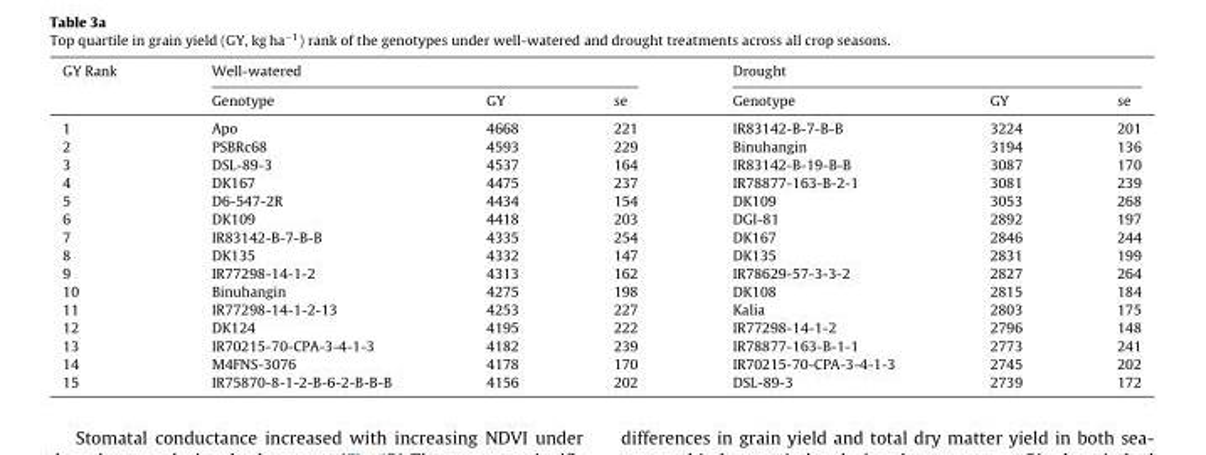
<table><thead><tr><td rowspan="2">GY Rank</td><td colspan="3">Well-watered</td><td colspan="3">Drought</td></tr><tr><td>Genotype</td><td>GY</td><td>se</td><td>Genotype</td><td>GY</td><td>se</td></tr></thead><tbody><tr><td>1</td><td>Apo</td><td>4668</td><td>221</td><td>IR83142-B-7-B-B</td><td>3224</td><td>201</td></tr><tr><td>2</td><td>PSBRc68</td><td>4593</td><td>229</td><td>Binuhangin</td><td>3194</td><td>136</td></tr><tr><td>3</td><td>DSL-89-3</td><td>4537</td><td>164</td><td>IR83142-B-19-B-B</td><td>3087</td><td>170</td></tr><tr><td>4</td><td>DK167</td><td>4475</td><td>237</td><td>IR78877-163-B-2-1</td><td>3081</td><td>239</td></tr><tr><td>5</td><td>D6-547-2R</td><td>4434</td><td>154</td><td>DK109</td><td>3053</td><td>268</td></tr><tr><td>6</td><td>DK109</td><td>4418</td><td>203</td><td>DGI-81</td><td>2892</td><td>197</td></tr><tr><td>7</td><td>IR83142-B-7-B-B</td><td>4335</td><td>254</td><td>DK167</td><td>2846</td><td>244</td></tr><tr><td>8</td><td>DK135</td><td>4332</td><td>147</td><td>DK135</td><td>2831</td><td>199</td></tr><tr><td>9</td><td>IR77298-14-1-2</td><td>4313</td><td>162</td><td>IR78629-57-3-3-2</td><td>2827</td><td>264</td></tr><tr><td>10</td><td>Binuhangin</td><td>4275</td><td>198</td><td>DK108</td><td>2815</td><td>184</td></tr><tr><td>11</td><td>IR77298-14-1-2-13</td><td>4253</td><td>227</td><td>Kalia</td><td>2803</td><td>175</td></tr><tr><td>12</td><td>DK124</td><td>4195</td><td>222</td><td>IR77298-14-1-2</td><td>2796</td><td>148</td></tr><tr><td>13</td><td>IR70215-70-CPA-3-4-1-3</td><td>4182</td><td>239</td><td>IR78877-163-B-1-1</td><td>2773</td><td>241</td></tr><tr><td>14</td><td>M4FNS-3076</td><td>4178</td><td>170</td><td>IR70215-70-CPA-3-4-1-3</td><td>2745</td><td>202</td></tr><tr><td>15</td><td>IR75870-8-1-2-B-6-2-B-B-B</td><td>4156</td><td>202</td><td>DSL-89-3</td><td>2739</td><td>172</td></tr></tbody></table>